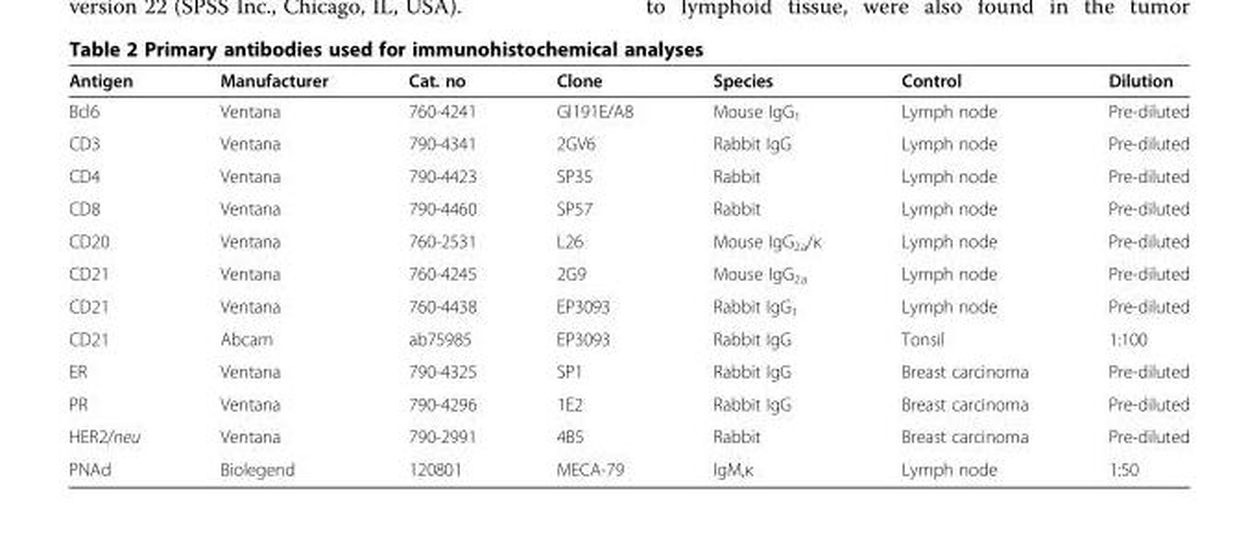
<table><thead><tr><td>Antigen</td><td>Manufacturer</td><td>Cat. no</td><td>Clone</td><td>Species</td><td>Control</td><td>Dilution</td></tr></thead><tbody><tr><td>Bcl6</td><td>Ventana</td><td>760-4241</td><td>GI191E/A8</td><td>Mouse IgG<sub>1</sub></td><td>Lymph node</td><td>Pre-diluted</td></tr><tr><td>CD3</td><td>Ventana</td><td>790-4341</td><td>2GV6</td><td>Rabbit IgG</td><td>Lymph node</td><td>Pre-diluted</td></tr><tr><td>CD4</td><td>Ventana</td><td>790-4423</td><td>SP35</td><td>Rabbit</td><td>Lymph node</td><td>Pre-diluted</td></tr><tr><td>CD8</td><td>Ventana</td><td>790-4460</td><td>SP57</td><td>Rabbit</td><td>Lymph node</td><td>Pre-diluted</td></tr><tr><td>CD20</td><td>Ventana</td><td>760-2531</td><td>L26</td><td>Mouse IgG<sub>2a</sub>/κ</td><td>Lymph node</td><td>Pre-diluted</td></tr><tr><td>CD21</td><td>Ventana</td><td>760-4245</td><td>2G9</td><td>Mouse IgG<sub>2a</sub></td><td>Lymph node</td><td>Pre-diluted</td></tr><tr><td>CD21</td><td>Ventana</td><td>760-4438</td><td>EP3093</td><td>Rabbit IgG<sub>1</sub></td><td>Lymph node</td><td>Pre-diluted</td></tr><tr><td>CD21</td><td>Abcam</td><td>ab75985</td><td>EP3093</td><td>Rabbit IgG</td><td>Tonsil</td><td>1:100</td></tr><tr><td>ER</td><td>Ventana</td><td>790-4325</td><td>SP1</td><td>Rabbit IgG</td><td>Breast carcinoma</td><td>Pre-diluted</td></tr><tr><td>PR</td><td>Ventana</td><td>790-4296</td><td>1E2</td><td>Rabbit IgG</td><td>Breast carcinoma</td><td>Pre-diluted</td></tr><tr><td>HER2/neu</td><td>Ventana</td><td>790-2991</td><td>4B5</td><td>Rabbit</td><td>Breast carcinoma</td><td>Pre-diluted</td></tr><tr><td>PNAd</td><td>Biolegend</td><td>120801</td><td>MECA-79</td><td>IgM,κ</td><td>Lymph node</td><td>1:50</td></tr></tbody></table>